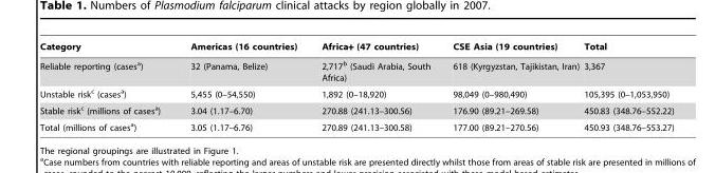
<table><thead><tr><td>Category</td><td>Americas (16 countries)</td><td>Africa+ (47 countries)</td><td>CSE Asia (19 countries)</td><td>Total</td></tr></thead><tbody><tr><td>Reliable reporting (cases<sup>a</sup>)</td><td>32 (Panama, Belize)</td><td>2,717<sup>b</sup> (Saudi Arabia, South Africa)</td><td>618 (Kyrgyzstan, Tajikistan, Iran)</td><td>3,367</td></tr><tr><td>Unstable risk<sup>c</sup> (cases<sup>a</sup>)</td><td>5,455 (0–54,550)</td><td>1,892 (0–18,920)</td><td>98,049 (0–980,490)</td><td>105,395 (0–1,053,950)</td></tr><tr><td>Stable risk<sup>c</sup> (millions of cases<sup>a</sup>)</td><td>3.04 (1.17–6.70)</td><td>270.88 (241.13–300.56)</td><td>176.90 (89.21–269.58)</td><td>450.83 (348.76–552.22)</td></tr><tr><td>Total (millions of cases<sup>a</sup>)</td><td>3.05 (1.17–6.76)</td><td>270.89 (241.13–300.58)</td><td>177.00 (89.21–270.56)</td><td>450.93 (348.76–553.27)</td></tr></tbody></table>